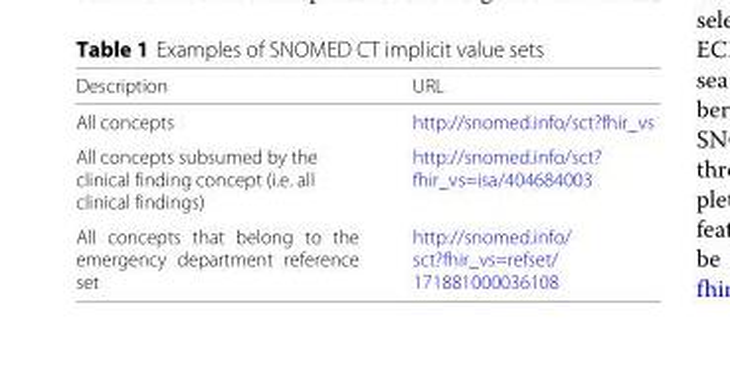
<table><thead><tr><td>Description</td><td>URL</td></tr></thead><tbody><tr><td>All concepts</td><td>http://snomed.info/sct?fhir_vs</td></tr><tr><td>All concepts subsumed by the clinical finding concept (i.e. all clinical findings)</td><td>http://snomed.info/sct? fhir_vs=isa/404684003</td></tr><tr><td>All concepts that belong to the emergency department reference set</td><td>http://snomed.info/ sct?fhir_vs=refset/ 171881000036108</td></tr></tbody></table>